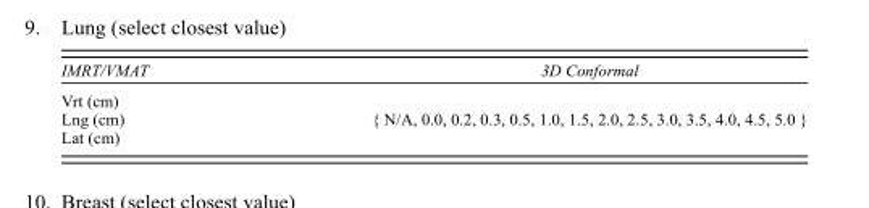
<table><thead><tr><td>IMRT/VMAT</td><td>3D Conformal</td></tr></thead><tbody><tr><td colspan="2">Vrt (cm)</td></tr><tr><td>Lng (cm)</td><td>{ N/A, 0.0, 0.2, 0.3, 0.5, 1.0, 1.5, 2.0, 2.5, 3.0, 3.5, 4.0, 4.5, 5.0 }</td></tr><tr><td>Lat (cm)</td><td></td></tr></tbody></table>